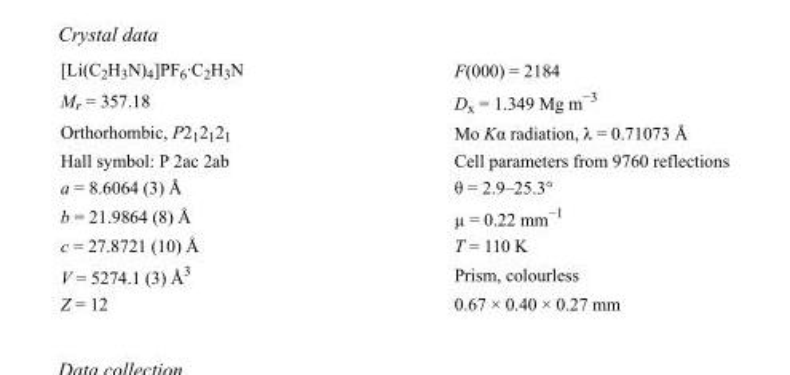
<table><tbody><tr><td>[Li(C<sub>2</sub>H<sub>3</sub>N)<sub>4</sub>]PF<sub>6</sub>·C<sub>2</sub>H<sub>3</sub>N</td><td>F(000) = 2184</td></tr><tr><td>M<sub>r</sub> = 357.18</td><td>D<sub>x</sub> = 1.349 Mg m<sup>−3</sup></td></tr><tr><td>Orthorhombic, P2<sub>1</sub>2<sub>1</sub>2<sub>1</sub></td><td>Mo Kα radiation, λ = 0.71073 Å</td></tr><tr><td>Hall symbol: P 2ac 2ab</td><td>Cell parameters from 9760 reflections</td></tr><tr><td>a = 8.6064 (3) Å</td><td>θ = 2.9–25.3°</td></tr><tr><td>b = 21.9864 (8) Å</td><td>µ = 0.22 mm<sup>−1</sup></td></tr><tr><td>c = 27.8721 (10) Å</td><td>T = 110 K</td></tr><tr><td>V = 5274.1 (3) Å<sup>3</sup></td><td>Prism, colourless</td></tr><tr><td>Z = 12</td><td>0.67 × 0.40 × 0.27 mm</td></tr></tbody></table>